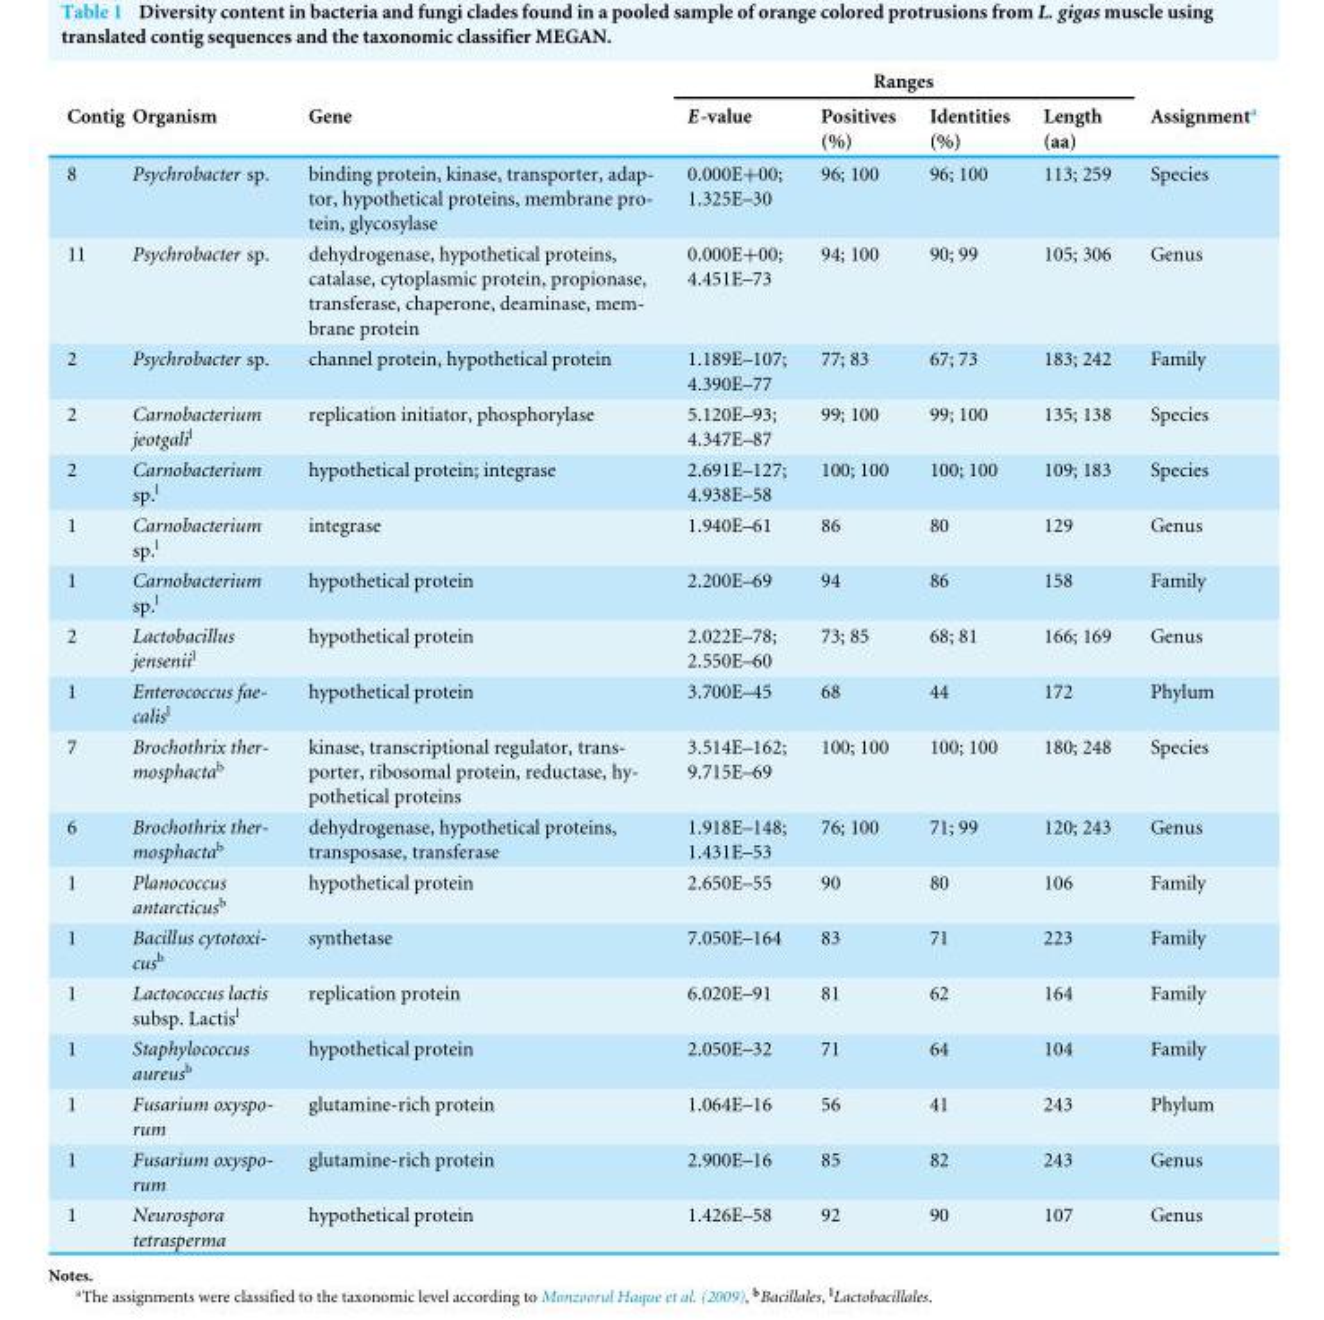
<table><thead><tr><td rowspan="2">Contig</td><td rowspan="2">Organism</td><td rowspan="2">Gene</td><td colspan="4">Ranges</td><td rowspan="2">Assignment<sup>a</sup></td></tr><tr><td>E-value</td><td>Positives (%)</td><td>Identities (%)</td><td>Length (aa)</td></tr></thead><tbody><tr><td>8</td><td>Psychrobacter sp.</td><td>binding protein, kinase, transporter, adap- tor, hypothetical proteins, membrane pro- tein, glycosylase</td><td>0.000E+00; 1.325E–30</td><td>96; 100</td><td>96; 100</td><td>113; 259</td><td>Species</td></tr><tr><td>11</td><td>Psychrobacter sp.</td><td>dehydrogenase, hypothetical proteins, catalase, cytoplasmic protein, propionase, transferase, chaperone, deaminase, mem- brane protein</td><td>0.000E+00; 4.451E–73</td><td>94; 100</td><td>90; 99</td><td>105; 306</td><td>Genus</td></tr><tr><td>2</td><td>Psychrobacter sp.</td><td>channel protein, hypothetical protein</td><td>1.189E–107; 4.390E–77</td><td>77; 83</td><td>67; 73</td><td>183; 242</td><td>Family</td></tr><tr><td>2</td><td>Carnobacterium jeotgali<sup>l</sup></td><td>replication initiator, phosphorylase</td><td>5.120E–93; 4.347E–87</td><td>99; 100</td><td>99; 100</td><td>135; 138</td><td>Species</td></tr><tr><td>2</td><td>Carnobacterium sp.<sup>l</sup></td><td>hypothetical protein; integrase</td><td>2.691E–127; 4.938E–58</td><td>100; 100</td><td>100; 100</td><td>109; 183</td><td>Species</td></tr><tr><td>1</td><td>Carnobacterium sp.<sup>l</sup></td><td>integrase</td><td>1.940E–61</td><td>86</td><td>80</td><td>129</td><td>Genus</td></tr><tr><td>1</td><td>Carnobacterium sp.<sup>l</sup></td><td>hypothetical protein</td><td>2.200E–69</td><td>94</td><td>86</td><td>158</td><td>Family</td></tr><tr><td>2</td><td>Lactobacillus jensenii<sup>l</sup></td><td>hypothetical protein</td><td>2.022E–78; 2.550E–60</td><td>73; 85</td><td>68; 81</td><td>166; 169</td><td>Genus</td></tr><tr><td>1</td><td>Enterococcus fae- calisl</td><td>hypothetical protein</td><td>3.700E–45</td><td>68</td><td>44</td><td>172</td><td>Phylum</td></tr><tr><td>7</td><td>Brochothrix ther- mosphactab</td><td>kinase, transcriptional regulator, trans- porter, ribosomal protein, reductase, hy- pothetical proteins</td><td>3.514E–162; 9.715E–69</td><td>100; 100</td><td>100; 100</td><td>180; 248</td><td>Species</td></tr><tr><td>6</td><td>Brochothrix ther- mosphactab</td><td>dehydrogenase, hypothetical proteins, transposase, transferase</td><td>1.918E–148; 1.431E–53</td><td>76; 100</td><td>71; 99</td><td>120; 243</td><td>Genus</td></tr><tr><td>1</td><td>Planococcus antarcticus<sup>b</sup></td><td>hypothetical protein</td><td>2.650E–55</td><td>90</td><td>80</td><td>106</td><td>Family</td></tr><tr><td>1</td><td>Bacillus cytotoxi- cusb</td><td>synthetase</td><td>7.050E–164</td><td>83</td><td>71</td><td>223</td><td>Family</td></tr><tr><td>1</td><td>Lactococcus lactis subsp. Lactis<sup>l</sup></td><td>replication protein</td><td>6.020E–91</td><td>81</td><td>62</td><td>164</td><td>Family</td></tr><tr><td>1</td><td>Staphylococcus aureus<sup>b</sup></td><td>hypothetical protein</td><td>2.050E–32</td><td>71</td><td>64</td><td>104</td><td>Family</td></tr><tr><td>1</td><td>Fusarium oxyspo- rum</td><td>glutamine-rich protein</td><td>1.064E–16</td><td>56</td><td>41</td><td>243</td><td>Phylum</td></tr><tr><td>1</td><td>Fusarium oxyspo- rum</td><td>glutamine-rich protein</td><td>2.900E–16</td><td>85</td><td>82</td><td>243</td><td>Genus</td></tr><tr><td>1</td><td>Neurospora tetrasperma</td><td>hypothetical protein</td><td>1.426E–58</td><td>92</td><td>90</td><td>107</td><td>Genus</td></tr></tbody></table>